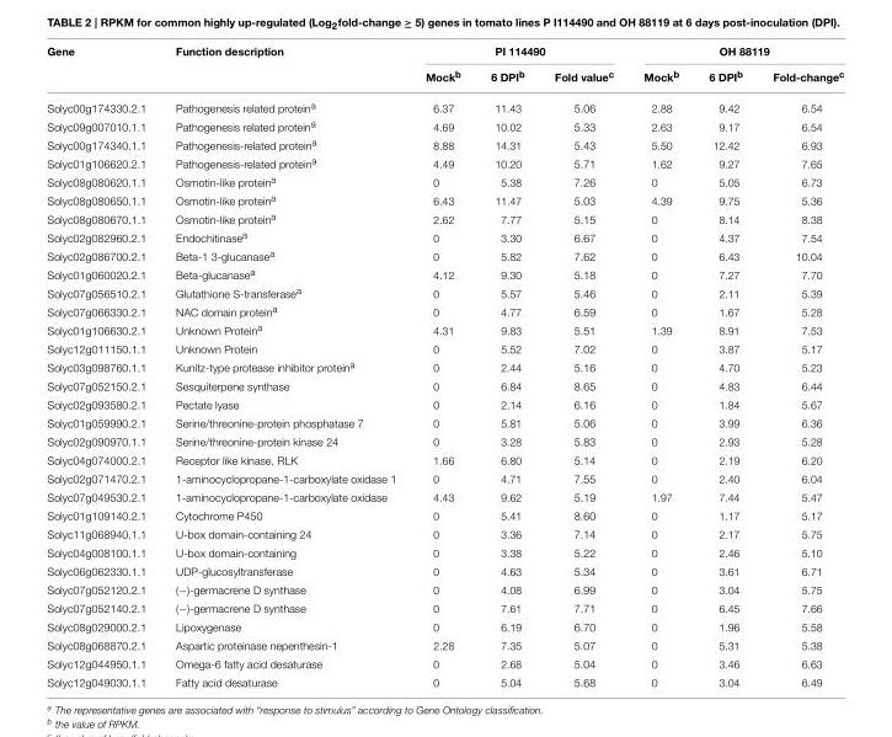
<table><thead><tr><td rowspan="2">Gene</td><td rowspan="2">Function description</td><td colspan="3">PI 114490</td><td colspan="3">OH 88119</td></tr><tr><td>Mock<sup>b</sup></td><td>6 DPI<sup>b</sup></td><td>Fold value<sup>c</sup></td><td>Mock<sup>b</sup></td><td>6 DPI<sup>b</sup></td><td>Fold-change<sup>c</sup></td></tr></thead><tbody><tr><td>Solyc00g174330.2.1</td><td>Pathogenesis related protein<sup>a</sup></td><td>6.37</td><td>11.43</td><td>5.06</td><td>2.88</td><td>9.42</td><td>6.54</td></tr><tr><td>Solyc09g007010.1.1</td><td>Pathogenesis related protein<sup>a</sup></td><td>4.69</td><td>10.02</td><td>5.33</td><td>2.63</td><td>9.17</td><td>6.54</td></tr><tr><td>Solyc00g174340.1.1</td><td>Pathogenesis-related protein<sup>a</sup></td><td>8.88</td><td>14.31</td><td>5.43</td><td>5.50</td><td>12.42</td><td>6.93</td></tr><tr><td>Solyc01g106620.2.1</td><td>Pathogenesis-related protein<sup>a</sup></td><td>4.49</td><td>10.20</td><td>5.71</td><td>1.62</td><td>9.27</td><td>7.65</td></tr><tr><td>Solyc08g080620.1.1</td><td>Osmotin-like protein<sup>a</sup></td><td>0</td><td>5.38</td><td>7.26</td><td>0</td><td>5.05</td><td>6.73</td></tr><tr><td>Solyc08g080650.1.1</td><td>Osmotin-like protein<sup>a</sup></td><td>6.43</td><td>11.47</td><td>5.03</td><td>4.39</td><td>9.75</td><td>5.36</td></tr><tr><td>Solyc08g080670.1.1</td><td>Osmotin-like protein<sup>a</sup></td><td>2.62</td><td>7.77</td><td>5.15</td><td>0</td><td>8.14</td><td>8.38</td></tr><tr><td>Solyc02g082960.2.1</td><td>Endochitinase<sup>a</sup></td><td>0</td><td>3.30</td><td>6.67</td><td>0</td><td>4.37</td><td>7.54</td></tr><tr><td>Solyc02g086700.2.1</td><td>Beta-1 3-glucanase<sup>a</sup></td><td>0</td><td>5.82</td><td>7.62</td><td>0</td><td>6.43</td><td>10.04</td></tr><tr><td>Solyc01g060020.2.1</td><td>Beta-glucanase<sup>a</sup></td><td>4.12</td><td>9.30</td><td>5.18</td><td>0</td><td>7.27</td><td>7.70</td></tr><tr><td>Solyc07g056510.2.1</td><td>Glutathione S-transferase<sup>a</sup></td><td>0</td><td>5.57</td><td>5.46</td><td>0</td><td>2.11</td><td>5.39</td></tr><tr><td>Solyc07g066330.2.1</td><td>NAC domain protein<sup>a</sup></td><td>0</td><td>4.77</td><td>6.59</td><td>0</td><td>1.67</td><td>5.28</td></tr><tr><td>Solyc01g106630.2.1</td><td>Unknown Protein<sup>a</sup></td><td>4.31</td><td>9.83</td><td>5.51</td><td>1.39</td><td>8.91</td><td>7.53</td></tr><tr><td>Solyc12g011150.1.1</td><td>Unknown Protein</td><td>0</td><td>5.52</td><td>7.02</td><td>0</td><td>3.87</td><td>5.17</td></tr><tr><td>Solyc03g098760.1.1</td><td>Kunitz-type protease inhibitor protein<sup>a</sup></td><td>0</td><td>2.44</td><td>5.16</td><td>0</td><td>4.70</td><td>5.23</td></tr><tr><td>Solyc07g052150.2.1</td><td>Sesquiterpene synthase</td><td>0</td><td>6.84</td><td>8.65</td><td>0</td><td>4.83</td><td>6.44</td></tr><tr><td>Solyc02g093580.2.1</td><td>Pectate lyase</td><td>0</td><td>2.14</td><td>6.16</td><td>0</td><td>1.84</td><td>5.67</td></tr><tr><td>Solyc01g059990.2.1</td><td>Serine/threonine-protein phosphatase 7</td><td>0</td><td>5.81</td><td>5.06</td><td>0</td><td>3.99</td><td>6.36</td></tr><tr><td>Solyc02g090970.1.1</td><td>Serine/threonine-protein kinase 24</td><td>0</td><td>3.28</td><td>5.83</td><td>0</td><td>2.93</td><td>5.28</td></tr><tr><td>Solyc04g074000.2.1</td><td>Receptor like kinase, RLK</td><td>1.66</td><td>6.80</td><td>5.14</td><td>0</td><td>2.19</td><td>6.20</td></tr><tr><td>Solyc02g071470.2.1</td><td>1-aminocyclopropane-1-carboxylate oxidase 1</td><td>0</td><td>4.71</td><td>7.55</td><td>0</td><td>2.40</td><td>6.04</td></tr><tr><td>Solyc07g049530.2.1</td><td>1-aminocyclopropane-1-carboxylate oxidase</td><td>4.43</td><td>9.62</td><td>5.19</td><td>1.97</td><td>7.44</td><td>5.47</td></tr><tr><td>Solyc01g109140.2.1</td><td>Cytochrome P450</td><td>0</td><td>5.41</td><td>8.60</td><td>0</td><td>1.17</td><td>5.17</td></tr><tr><td>Solyc11g068940.1.1</td><td>U-box domain-containing 24</td><td>0</td><td>3.36</td><td>7.14</td><td>0</td><td>2.17</td><td>5.75</td></tr><tr><td>Solyc04g008100.1.1</td><td>U-box domain-containing</td><td>0</td><td>3.38</td><td>5.22</td><td>0</td><td>2.46</td><td>5.10</td></tr><tr><td>Solyc06g062330.1.1</td><td>UDP-glucosyltransferase</td><td>0</td><td>4.63</td><td>5.34</td><td>0</td><td>3.61</td><td>6.71</td></tr><tr><td>Solyc07g052120.2.1</td><td>(−)-germacrene D synthase</td><td>0</td><td>4.08</td><td>6.99</td><td>0</td><td>3.04</td><td>5.75</td></tr><tr><td>Solyc07g052140.2.1</td><td>(−)-germacrene D synthase</td><td>0</td><td>7.61</td><td>7.71</td><td>0</td><td>6.45</td><td>7.66</td></tr><tr><td>Solyc08g029000.2.1</td><td>Lipoxygenase</td><td>0</td><td>6.19</td><td>6.70</td><td>0</td><td>1.96</td><td>5.58</td></tr><tr><td>Solyc08g068870.2.1</td><td>Aspartic proteinase nepenthesin-1</td><td>2.28</td><td>7.35</td><td>5.07</td><td>0</td><td>5.31</td><td>5.38</td></tr><tr><td>Solyc12g044950.1.1</td><td>Omega-6 fatty acid desaturase</td><td>0</td><td>2.68</td><td>5.04</td><td>0</td><td>3.46</td><td>6.63</td></tr><tr><td>Solyc12g049030.1.1</td><td>Fatty acid desaturase</td><td>0</td><td>5.04</td><td>5.68</td><td>0</td><td>3.04</td><td>6.49</td></tr></tbody></table>